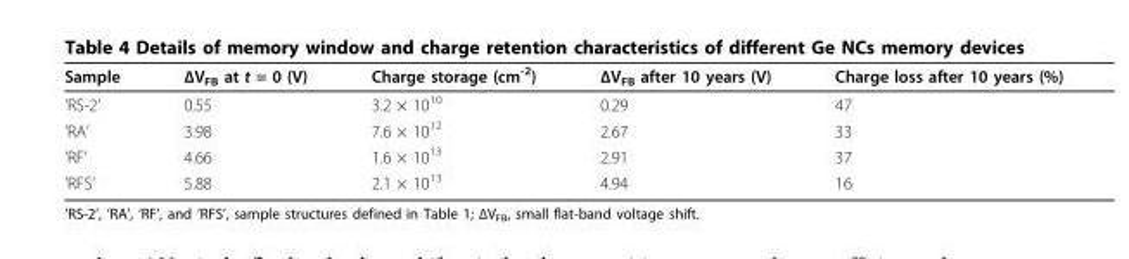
<table><thead><tr><td>Sample</td><td>ΔV<sub>FB</sub> at t = 0 (V)</td><td>Charge storage (cm<sup>-2</sup>)</td><td>ΔV<sub>FB</sub> after 10 years (V)</td><td>Charge loss after 10 years (%)</td></tr></thead><tbody><tr><td>’RS-2’</td><td>0.55</td><td>3.2 × 10<sup>10</sup></td><td>0.29</td><td>47</td></tr><tr><td>’RA’</td><td>3.98</td><td>7.6 × 10<sup>12</sup></td><td>2.67</td><td>33</td></tr><tr><td>’RF’</td><td>4.66</td><td>1.6 × 10<sup>13</sup></td><td>2.91</td><td>37</td></tr><tr><td>’RFS’</td><td>5.88</td><td>2.1 × 10<sup>13</sup></td><td>4.94</td><td>16</td></tr></tbody></table>